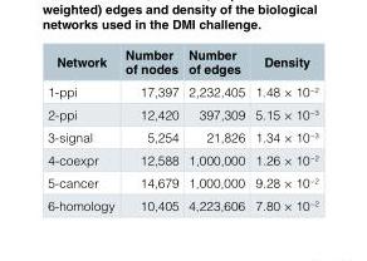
<table><thead><tr><td>Network</td><td>Number of nodes</td><td>Number of edges</td><td>Density</td></tr></thead><tbody><tr><td>1-ppi</td><td>17,397</td><td>2,232,405</td><td>1.48 × 10<sup>−2</sup></td></tr><tr><td>2-ppi</td><td>12,420</td><td>397,309</td><td>5.15 × 10<sup>−3</sup></td></tr><tr><td>3-signal</td><td>5,254</td><td>21,826</td><td>1.34 × 10<sup>−3</sup></td></tr><tr><td>4-coexpr</td><td>12,588</td><td>1,000,000</td><td>1.26 × 10<sup>−2</sup></td></tr><tr><td>5-cancer</td><td>14,679</td><td>1,000,000</td><td>9.28 × 10<sup>−2</sup></td></tr><tr><td>6-homology</td><td>10,405</td><td>4,223,606</td><td>7.80 × 10<sup>−2</sup></td></tr></tbody></table>